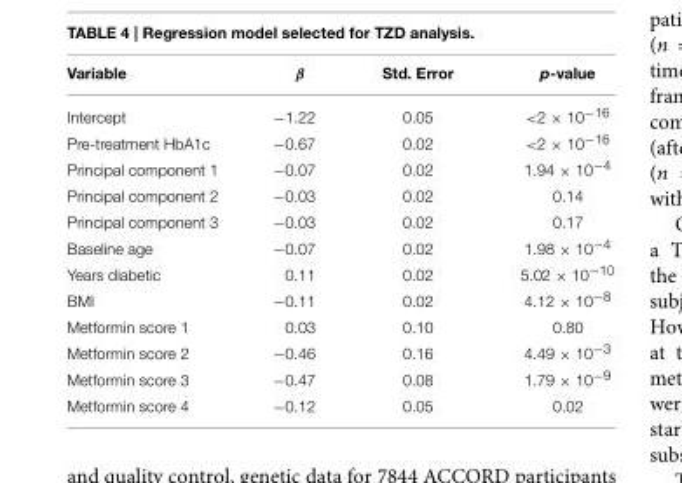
<table><thead><tr><td>Variable</td><td>β</td><td>Std. Error</td><td>p-value</td></tr></thead><tbody><tr><td>Intercept</td><td>−1.22</td><td>0.05</td><td>&lt;2 × 10<sup>−16</sup></td></tr><tr><td>Pre-treatment HbA1c</td><td>−0.67</td><td>0.02</td><td>&lt;2 × 10<sup>−16</sup></td></tr><tr><td>Principal component 1</td><td>−0.07</td><td>0.02</td><td>1.94 × 10<sup>−4</sup></td></tr><tr><td>Principal component 2</td><td>−0.03</td><td>0.02</td><td>0.14</td></tr><tr><td>Principal component 3</td><td>−0.03</td><td>0.02</td><td>0.17</td></tr><tr><td>Baseline age</td><td>−0.07</td><td>0.02</td><td>1.98 × 10<sup>−4</sup></td></tr><tr><td>Years diabetic</td><td>0.11</td><td>0.02</td><td>5.02 × 10<sup>−10</sup></td></tr><tr><td>BMI</td><td>−0.11</td><td>0.02</td><td>4.12 × 10<sup>−8</sup></td></tr><tr><td>Metformin score 1</td><td>0.03</td><td>0.10</td><td>0.80</td></tr><tr><td>Metformin score 2</td><td>−0.46</td><td>0.16</td><td>4.49 × 10<sup>−3</sup></td></tr><tr><td>Metformin score 3</td><td>−0.47</td><td>0.08</td><td>1.79 × 10<sup>−9</sup></td></tr><tr><td>Metformin score 4</td><td>−0.12</td><td>0.05</td><td>0.02</td></tr></tbody></table>